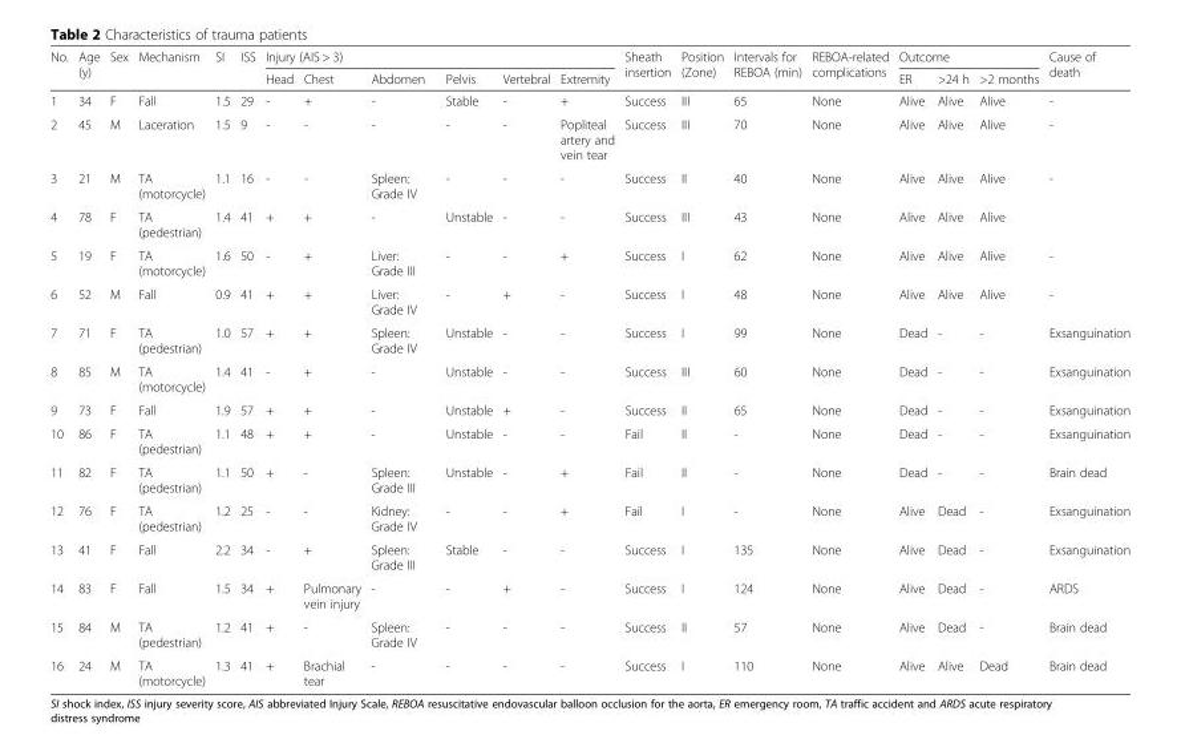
<table><thead><tr><td rowspan="2">No.</td><td rowspan="2">Age (y)</td><td rowspan="2">Sex</td><td rowspan="2">Mechanism</td><td rowspan="2">SI</td><td rowspan="2">ISS</td><td colspan="6">Injury (AIS &gt; 3)</td><td rowspan="2">Sheath insertion</td><td rowspan="2">Position (Zone)</td><td rowspan="2">Intervals for REBOA (min)</td><td rowspan="2">REBOA-related complications</td><td colspan="3">Outcome</td><td rowspan="2">Cause of death</td></tr><tr><td>Head</td><td>Chest</td><td>Abdomen</td><td>Pelvis</td><td>Vertebral</td><td>Extremity</td><td>ER</td><td>&gt;24 h</td><td>&gt;2 months</td></tr></thead><tbody><tr><td>1</td><td>34</td><td>F</td><td>Fall</td><td>1.5</td><td>29</td><td>-</td><td>+</td><td>-</td><td>Stable</td><td>-</td><td>+</td><td>Success</td><td>III</td><td>65</td><td>None</td><td>Alive</td><td>Alive</td><td>Alive</td><td>-</td></tr><tr><td>2</td><td>45</td><td>M</td><td>Laceration</td><td>1.5</td><td>9</td><td>-</td><td>-</td><td>-</td><td>-</td><td>-</td><td>Popliteal artery and vein tear</td><td>Success</td><td>III</td><td>70</td><td>None</td><td>Alive</td><td>Alive</td><td>Alive</td><td>-</td></tr><tr><td>3</td><td>21</td><td>M</td><td>TA (motorcycle)</td><td>1.1</td><td>16</td><td>-</td><td>-</td><td>Spleen: Grade IV</td><td>-</td><td>-</td><td>-</td><td>Success</td><td>II</td><td>40</td><td>None</td><td>Alive</td><td>Alive</td><td>Alive</td><td>-</td></tr><tr><td>4</td><td>78</td><td>F</td><td>TA (pedestrian)</td><td>1.4</td><td>41</td><td>+</td><td>+</td><td>-</td><td>Unstable</td><td>-</td><td>-</td><td>Success</td><td>III</td><td>43</td><td>None</td><td>Alive</td><td>Alive</td><td>Alive</td><td></td></tr><tr><td>5</td><td>19</td><td>F</td><td>TA (motorcycle)</td><td>1.6</td><td>50</td><td>-</td><td>+</td><td>Liver: Grade III</td><td>-</td><td>-</td><td>+</td><td>Success</td><td>I</td><td>62</td><td>None</td><td>Alive</td><td>Alive</td><td>Alive</td><td>-</td></tr><tr><td>6</td><td>52</td><td>M</td><td>Fall</td><td>0.9</td><td>41</td><td>+</td><td>+</td><td>Liver: Grade IV</td><td>-</td><td>+</td><td>-</td><td>Success</td><td>I</td><td>48</td><td>None</td><td>Alive</td><td>Alive</td><td>Alive</td><td>-</td></tr><tr><td>7</td><td>71</td><td>F</td><td>TA (pedestrian)</td><td>1.0</td><td>57</td><td>+</td><td>+</td><td>Spleen: Grade IV</td><td>Unstable</td><td>-</td><td>-</td><td>Success</td><td>I</td><td>99</td><td>None</td><td>Dead</td><td>-</td><td>-</td><td>Exsanguination</td></tr><tr><td>8</td><td>85</td><td>M</td><td>TA (motorcycle)</td><td>1.4</td><td>41</td><td>-</td><td>+</td><td>-</td><td>Unstable</td><td>-</td><td>-</td><td>Success</td><td>III</td><td>60</td><td>None</td><td>Dead</td><td>-</td><td>-</td><td>Exsanguination</td></tr><tr><td>9</td><td>73</td><td>F</td><td>Fall</td><td>1.9</td><td>57</td><td>+</td><td>+</td><td>-</td><td>Unstable</td><td>+</td><td>-</td><td>Success</td><td>II</td><td>65</td><td>None</td><td>Dead</td><td>-</td><td>-</td><td>Exsanguination</td></tr><tr><td>10</td><td>86</td><td>F</td><td>TA (pedestrian)</td><td>1.1</td><td>48</td><td>+</td><td>+</td><td>-</td><td>Unstable</td><td>-</td><td>-</td><td>Fail</td><td>II</td><td>-</td><td>None</td><td>Dead</td><td>-</td><td>-</td><td>Exsanguination</td></tr><tr><td>11</td><td>82</td><td>F</td><td>TA (pedestrian)</td><td>1.1</td><td>50</td><td>+</td><td>-</td><td>Spleen: Grade III</td><td>Unstable</td><td>-</td><td>+</td><td>Fail</td><td>II</td><td>-</td><td>None</td><td>Dead</td><td>-</td><td>-</td><td>Brain dead</td></tr><tr><td>12</td><td>76</td><td>F</td><td>TA (pedestrian)</td><td>1.2</td><td>25</td><td>-</td><td>-</td><td>Kidney: Grade IV</td><td>-</td><td>-</td><td>+</td><td>Fail</td><td>I</td><td>-</td><td>None</td><td>Alive</td><td>Dead</td><td>-</td><td>Exsanguination</td></tr><tr><td>13</td><td>41</td><td>F</td><td>Fall</td><td>2.2</td><td>34</td><td>-</td><td>+</td><td>Spleen: Grade III</td><td>Stable</td><td>-</td><td>-</td><td>Success</td><td>I</td><td>135</td><td>None</td><td>Alive</td><td>Dead</td><td>-</td><td>Exsanguination</td></tr><tr><td>14</td><td>83</td><td>F</td><td>Fall</td><td>1.5</td><td>34</td><td>+</td><td>Pulmonary vein injury</td><td>-</td><td>-</td><td>+</td><td>-</td><td>Success</td><td>I</td><td>124</td><td>None</td><td>Alive</td><td>Dead</td><td>-</td><td>ARDS</td></tr><tr><td>15</td><td>84</td><td>M</td><td>TA (pedestrian)</td><td>1.2</td><td>41</td><td>+</td><td>-</td><td>Spleen: Grade IV</td><td>-</td><td>-</td><td>-</td><td>Success</td><td>II</td><td>57</td><td>None</td><td>Alive</td><td>Dead</td><td>-</td><td>Brain dead</td></tr><tr><td>16</td><td>24</td><td>M</td><td>TA (motorcycle)</td><td>1.3</td><td>41</td><td>+</td><td>Brachial tear</td><td>-</td><td>-</td><td>-</td><td>-</td><td>Success</td><td>I</td><td>110</td><td>None</td><td>Alive</td><td>Alive</td><td>Dead</td><td>Brain dead</td></tr></tbody></table>